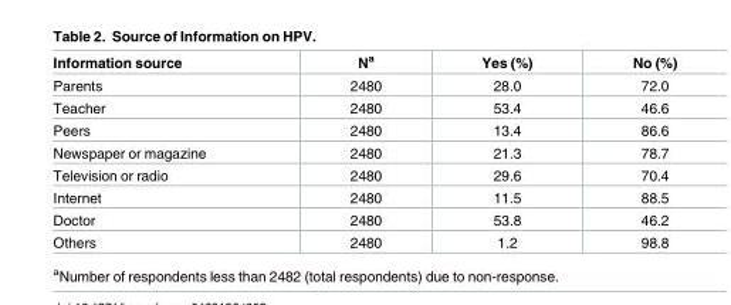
<table><thead><tr><td>Information source</td><td>N<sup>a</sup></td><td>Yes (%)</td><td>No (%)</td></tr></thead><tbody><tr><td>Parents</td><td>2480</td><td>28.0</td><td>72.0</td></tr><tr><td>Teacher</td><td>2480</td><td>53.4</td><td>46.6</td></tr><tr><td>Peers</td><td>2480</td><td>13.4</td><td>86.6</td></tr><tr><td>Newspaper or magazine</td><td>2480</td><td>21.3</td><td>78.7</td></tr><tr><td>Television or radio</td><td>2480</td><td>29.6</td><td>70.4</td></tr><tr><td>Internet</td><td>2480</td><td>11.5</td><td>88.5</td></tr><tr><td>Doctor</td><td>2480</td><td>53.8</td><td>46.2</td></tr><tr><td>Others</td><td>2480</td><td>1.2</td><td>98.8</td></tr></tbody></table>